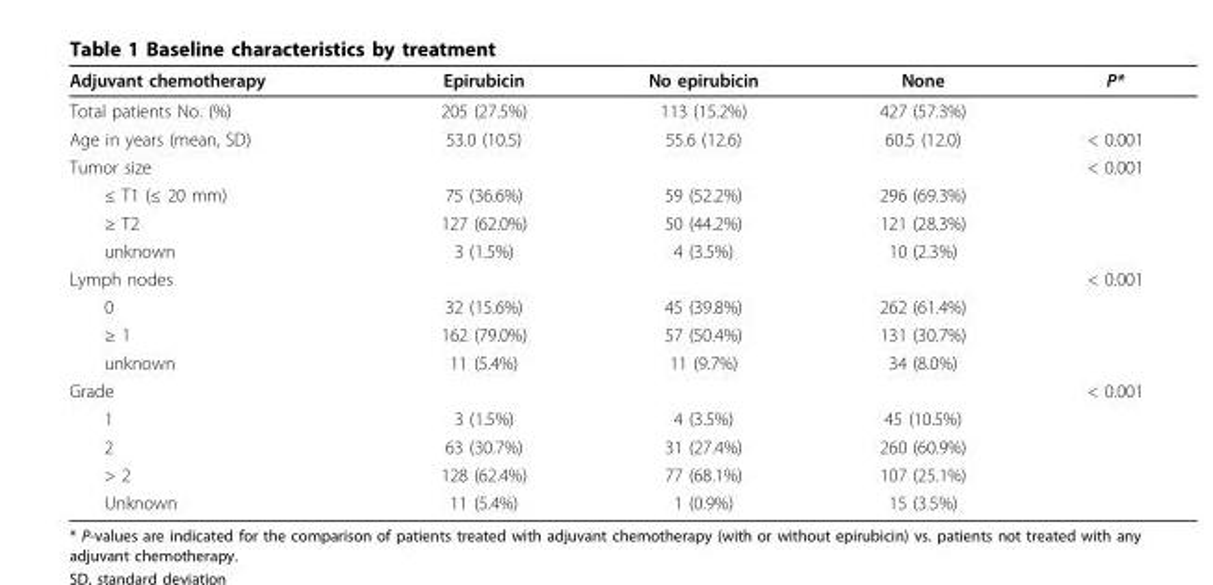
<table><thead><tr><td>Adjuvant chemotherapy</td><td>Epirubicin</td><td>No epirubicin</td><td>None</td><td>P*</td></tr></thead><tbody><tr><td>Total patients No. (%)</td><td>205 (27.5%)</td><td>113 (15.2%)</td><td>427 (57.3%)</td><td></td></tr><tr><td>Age in years (mean, SD)</td><td>53.0 (10.5)</td><td>55.6 (12.6)</td><td>60.5 (12.0)</td><td>&lt; 0.001</td></tr><tr><td>Tumor size</td><td></td><td></td><td></td><td>&lt; 0.001</td></tr><tr><td>≤ T1 (≤ 20 mm)</td><td>75 (36.6%)</td><td>59 (52.2%)</td><td>296 (69.3%)</td><td></td></tr><tr><td>≥ T2</td><td>127 (62.0%)</td><td>50 (44.2%)</td><td>121 (28.3%)</td><td></td></tr><tr><td>unknown</td><td>3 (1.5%)</td><td>4 (3.5%)</td><td>10 (2.3%)</td><td></td></tr><tr><td>Lymph nodes</td><td></td><td></td><td></td><td>&lt; 0.001</td></tr><tr><td>0</td><td>32 (15.6%)</td><td>45 (39.8%)</td><td>262 (61.4%)</td><td></td></tr><tr><td>≥ 1</td><td>162 (79.0%)</td><td>57 (50.4%)</td><td>131 (30.7%)</td><td></td></tr><tr><td>unknown</td><td>11 (5.4%)</td><td>11 (9.7%)</td><td>34 (8.0%)</td><td></td></tr><tr><td>Grade</td><td></td><td></td><td></td><td>&lt; 0.001</td></tr><tr><td>1</td><td>3 (1.5%)</td><td>4 (3.5%)</td><td>45 (10.5%)</td><td></td></tr><tr><td>2</td><td>63 (30.7%)</td><td>31 (27.4%)</td><td>260 (60.9%)</td><td></td></tr><tr><td>&gt; 2</td><td>128 (62.4%)</td><td>77 (68.1%)</td><td>107 (25.1%)</td><td></td></tr><tr><td>Unknown</td><td>11 (5.4%)</td><td>1 (0.9%)</td><td>15 (3.5%)</td><td></td></tr></tbody></table>